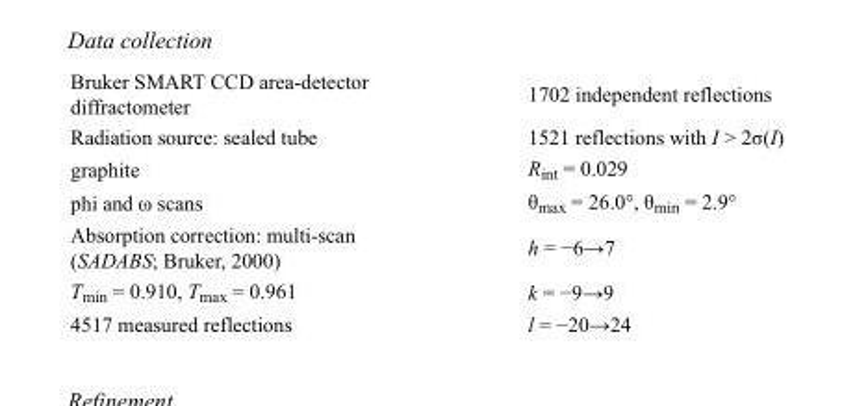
<table><tbody><tr><td>Bruker SMART CCD area-detector diffractometer</td><td>1702 independent reflections</td></tr><tr><td>Radiation source: sealed tube</td><td>1521 reflections with I &gt; 2σ(I)</td></tr><tr><td>graphite</td><td>R<sub>int</sub> = 0.029</td></tr><tr><td>phi and ω scans</td><td>θ<sub>max</sub> = 26.0°, θ<sub>min</sub> = 2.9°</td></tr><tr><td>Absorption correction: multi-scan (SADABS; Bruker, 2000)</td><td>h = −6→7</td></tr><tr><td>T<sub>min</sub> = 0.910, T<sub>max</sub> = 0.961</td><td>k = −9→9</td></tr><tr><td>4517 measured reflections</td><td>l = −20→24</td></tr></tbody></table>